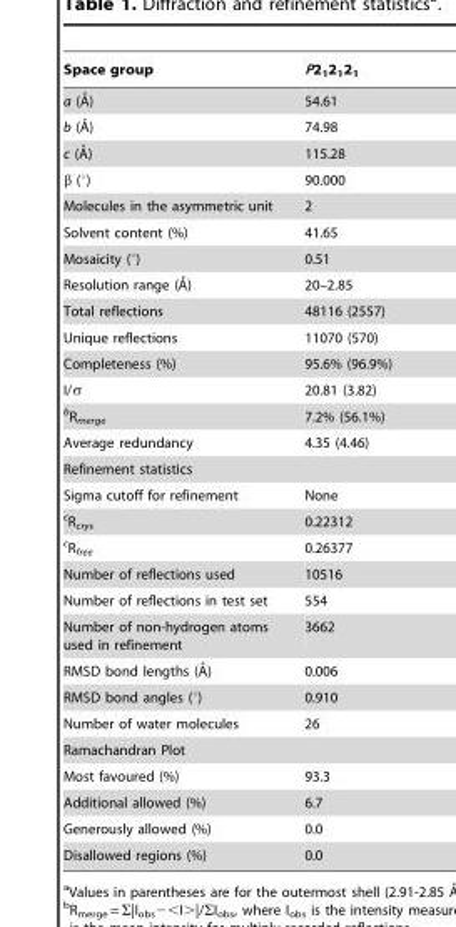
<table><thead><tr><td>Space group</td><td>P2<sub>1</sub>2<sub>1</sub>2<sub>1</sub></td></tr></thead><tbody><tr><td>a (A˚)</td><td>54.61</td></tr><tr><td>b (A˚)</td><td>74.98</td></tr><tr><td>c (A˚)</td><td>115.28</td></tr><tr><td>β (°)</td><td>90.000</td></tr><tr><td>Molecules in the asymmetric unit</td><td>2</td></tr><tr><td>Solvent content (%)</td><td>41.65</td></tr><tr><td>Mosaicity (°)</td><td>0.51</td></tr><tr><td>Resolution range (A˚)</td><td>20–2.85</td></tr><tr><td>Total reflections</td><td>48116 (2557)</td></tr><tr><td>Unique reflections</td><td>11070 (570)</td></tr><tr><td>Completeness (%)</td><td>95.6% (96.9%)</td></tr><tr><td>I/σ</td><td>20.81 (3.82)</td></tr><tr><td>bR<sub>merge</sub></td><td>7.2% (56.1%)</td></tr><tr><td>Average redundancy</td><td>4.35 (4.46)</td></tr><tr><td colspan="2">Refinement statistics</td></tr><tr><td>Sigma cutoff for refinement</td><td>None</td></tr><tr><td>cR<sub>crys</sub></td><td>0.22312</td></tr><tr><td>cR<sub>free</sub></td><td>0.26377</td></tr><tr><td>Number of reflections used</td><td>10516</td></tr><tr><td>Number of reflections in test set</td><td>554</td></tr><tr><td>Number of non-hydrogen atoms used in refinement</td><td>3662</td></tr><tr><td>RMSD bond lengths (A˚)</td><td>0.006</td></tr><tr><td>RMSD bond angles (°)</td><td>0.910</td></tr><tr><td>Number of water molecules</td><td>26</td></tr><tr><td colspan="2">Ramachandran Plot</td></tr><tr><td>Most favoured (%)</td><td>93.3</td></tr><tr><td>Additional allowed (%)</td><td>6.7</td></tr><tr><td>Generously allowed (%)</td><td>0.0</td></tr><tr><td>Disallowed regions (%)</td><td>0.0</td></tr></tbody></table>